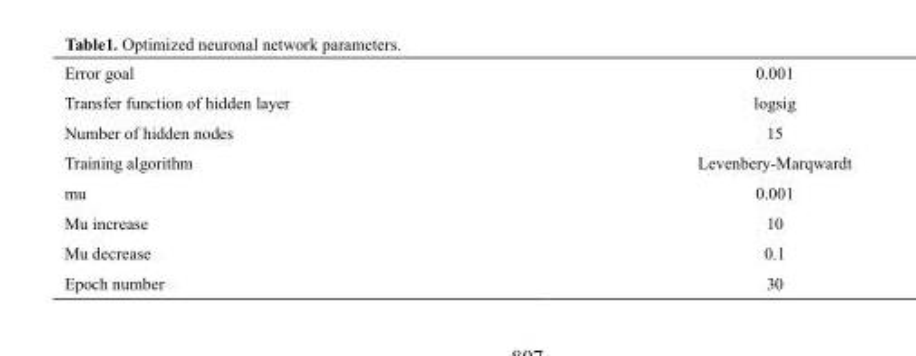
<table><tbody><tr><td>Error goal</td><td>0.001</td></tr><tr><td>Transfer function of hidden layer</td><td>logsig</td></tr><tr><td>Number of hidden nodes</td><td>15</td></tr><tr><td>Training algorithm</td><td>Levenbery-Marqwardt</td></tr><tr><td>mu</td><td>0.001</td></tr><tr><td>Mu increase</td><td>10</td></tr><tr><td>Mu decrease Epoch number</td><td>0.1 30</td></tr></tbody></table>